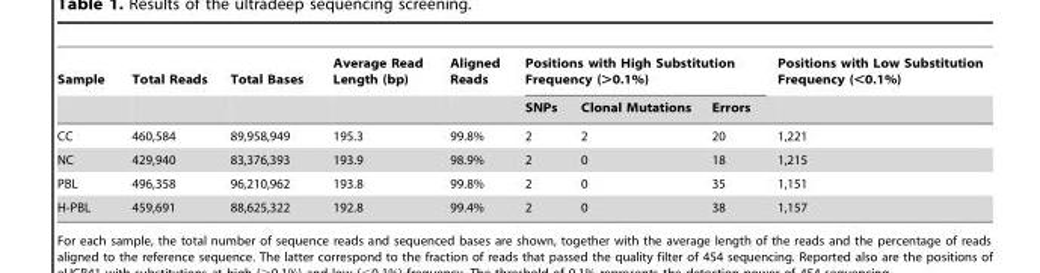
<table><thead><tr><td rowspan="2">Sample</td><td rowspan="2">Total Reads</td><td rowspan="2">Total Bases</td><td rowspan="2">Average Read Length (bp)</td><td rowspan="2">Aligned Reads</td><td colspan="3">Positions with High Substitution Frequency (&gt;0.1%)</td><td rowspan="2">Positions with Low Substitution Frequency (&lt;0.1%)</td></tr><tr><td>SNPs</td><td>Clonal Mutations</td><td>Errors</td></tr></thead><tbody><tr><td>CC</td><td>460,584</td><td>89,958,949</td><td>195.3</td><td>99.8%</td><td>2</td><td>2</td><td>20</td><td>1,221</td></tr><tr><td>NC</td><td>429,940</td><td>83,376,393</td><td>193.9</td><td>98.9%</td><td>2</td><td>0</td><td>18</td><td>1,215</td></tr><tr><td>PBL</td><td>496,358</td><td>96,210,962</td><td>193.8</td><td>99.8%</td><td>2</td><td>0</td><td>35</td><td>1,151</td></tr><tr><td>H-PBL</td><td>459,691</td><td>88,625,322</td><td>192.8</td><td>99.4%</td><td>2</td><td>0</td><td>38</td><td>1,157</td></tr></tbody></table>